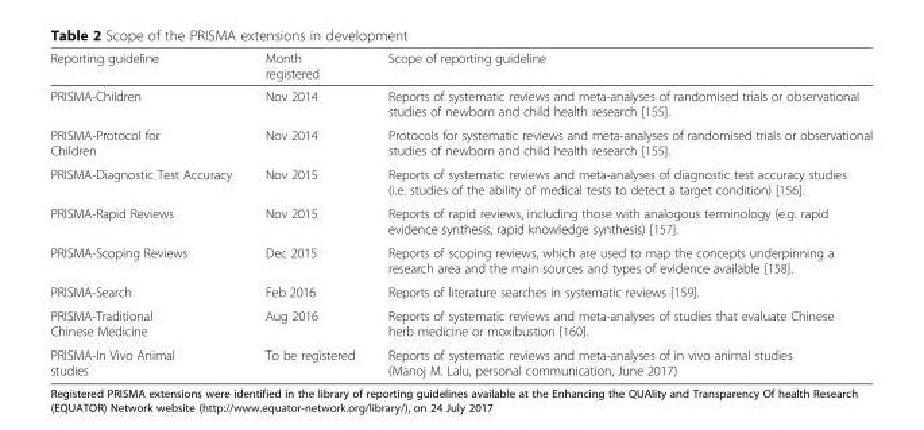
<table><thead><tr><td>Reporting guideline</td><td>Month registered</td><td>Scope of reporting guideline</td></tr></thead><tbody><tr><td>PRISMA-Children</td><td>Nov 2014</td><td>Reports of systematic reviews and meta-analyses of randomised trials or observational studies of newborn and child health research [155].</td></tr><tr><td>PRISMA-Protocol for Children</td><td>Nov 2014</td><td>Protocols for systematic reviews and meta-analyses of randomised trials or observational studies of newborn and child health research [155].</td></tr><tr><td>PRISMA-Diagnostic Test Accuracy</td><td>Nov 2015</td><td>Reports of systematic reviews and meta-analyses of diagnostic test accuracy studies (i.e. studies of the ability of medical tests to detect a target condition) [156].</td></tr><tr><td>PRISMA-Rapid Reviews</td><td>Nov 2015</td><td>Reports of rapid reviews, including those with analogous terminology (e.g. rapid evidence synthesis, rapid knowledge synthesis) [157].</td></tr><tr><td>PRISMA-Scoping Reviews</td><td>Dec 2015</td><td>Reports of scoping reviews, which are used to map the concepts underpinning a research area and the main sources and types of evidence available [158].</td></tr><tr><td>PRISMA-Search</td><td>Feb 2016</td><td>Reports of literature searches in systematic reviews [159].</td></tr><tr><td>PRISMA-Traditional Chinese Medicine</td><td>Aug 2016</td><td>Reports of systematic reviews and meta-analyses of studies that evaluate Chinese herb medicine or moxibustion [160].</td></tr><tr><td>PRISMA-In Vivo Animal studies</td><td>To be registered</td><td>Reports of systematic reviews and meta-analyses of in vivo animal studies (Manoj M. Lalu, personal communication, June 2017)</td></tr></tbody></table>